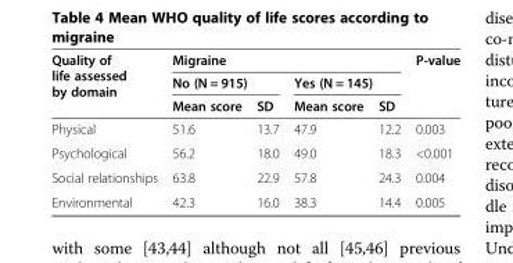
<table><thead><tr><td rowspan="3">Quality of life assessed by domain</td><td colspan="4">Migraine</td><td rowspan="3">P-value</td></tr><tr><td colspan="2">No (N = 915)</td><td colspan="2">Yes (N = 145)</td></tr><tr><td>Mean score</td><td>SD</td><td>Mean score</td><td>SD</td></tr></thead><tbody><tr><td>Physical</td><td>51.6</td><td>13.7</td><td>47.9</td><td>12.2</td><td>0.003</td></tr><tr><td>Psychological</td><td>56.2</td><td>18.0</td><td>49.0</td><td>18.3</td><td>&lt;0.001</td></tr><tr><td>Social relationships</td><td>63.8</td><td>22.9</td><td>57.8</td><td>24.3</td><td>0.004</td></tr><tr><td>Environmental</td><td>42.3</td><td>16.0</td><td>38.3</td><td>14.4</td><td>0.005</td></tr></tbody></table>